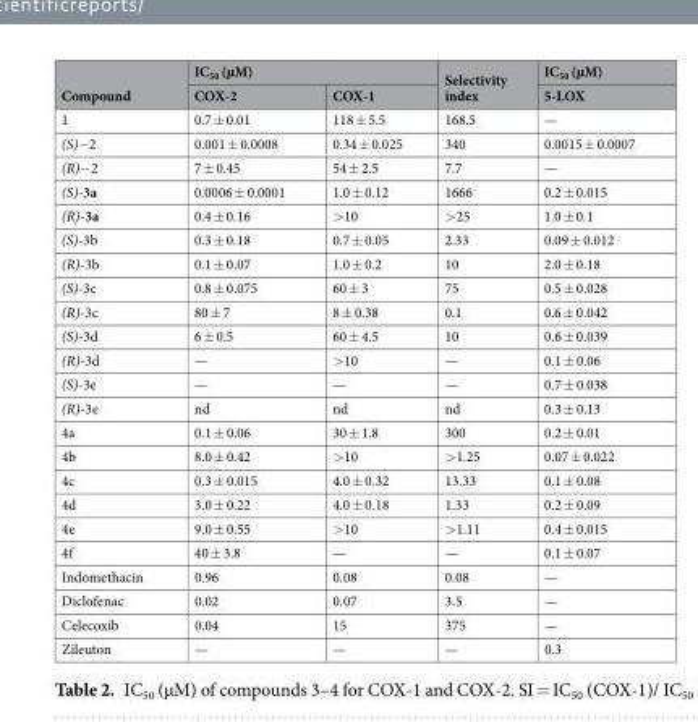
<table><thead><tr><td rowspan="2">Compound</td><td colspan="2">IC<sub>50</sub> (µM)</td><td rowspan="2">Selectivity index</td><td rowspan="2">IC<sub>50</sub> (µM) 5-LOX</td></tr><tr><td>COX-2</td><td>COX-1</td></tr></thead><tbody><tr><td>1</td><td>0.7 ± 0.01</td><td>118 ± 5.5</td><td>168.5</td><td>—</td></tr><tr><td>(S)−2</td><td>0.001 ± 0.0008</td><td>0.34 ± 0.025</td><td>340</td><td>0.0015 ± 0.0007</td></tr><tr><td>(R)−2</td><td>7 ± 0.45</td><td>54 ± 2.5</td><td>7.7</td><td>—</td></tr><tr><td>(S)-3a</td><td>0.0006 ± 0.0001</td><td>1.0 ± 0.12</td><td>1666</td><td>0.2 ± 0.015</td></tr><tr><td>(R)-3a</td><td>0.4 ± 0.16</td><td>&gt;10</td><td>&gt;25</td><td>1.0 ± 0.1</td></tr><tr><td>(S)-3b</td><td>0.3 ± 0.18</td><td>0.7 ± 0.05</td><td>2.33</td><td>0.09 ± 0.012</td></tr><tr><td>(R)-3b</td><td>0.1 ± 0.07</td><td>1.0 ± 0.2</td><td>10</td><td>2.0 ± 0.18</td></tr><tr><td>(S)-3c</td><td>0.8 ± 0.075</td><td>60 ± 3</td><td>75</td><td>0.5 ± 0.028</td></tr><tr><td>(R)-3c</td><td>80 ± 7</td><td>8 ± 0.38</td><td>0.1</td><td>0.6 ± 0.042</td></tr><tr><td>(S)-3d</td><td>6 ± 0.5</td><td>60 ± 4.5</td><td>10</td><td>0.6 ± 0.039</td></tr><tr><td>(R)-3d</td><td>—</td><td>&gt;10</td><td>—</td><td>0.1 ± 0.06</td></tr><tr><td>(S)-3e</td><td>—</td><td>—</td><td>—</td><td>0.7 ± 0.038</td></tr><tr><td>(R)-3e</td><td>nd</td><td>nd</td><td>nd</td><td>0.3 ± 0.13</td></tr><tr><td>4a</td><td>0.1 ± 0.06</td><td>30 ± 1.8</td><td>300</td><td>0.2 ± 0.01</td></tr><tr><td>4b</td><td>8.0 ± 0.42</td><td>&gt;10</td><td>&gt;1.25</td><td>0.07 ± 0.022</td></tr><tr><td>4c</td><td>0.3 ± 0.015</td><td>4.0 ± 0.32</td><td>13.33</td><td>0.1 ± 0.08</td></tr><tr><td>4d</td><td>3.0 ± 0.22</td><td>4.0 ± 0.18</td><td>1.33</td><td>0.2 ± 0.09</td></tr><tr><td>4e</td><td>9.0 ± 0.55</td><td>&gt;10</td><td>&gt;1.11</td><td>0.4 ± 0.015</td></tr><tr><td>4f</td><td>40 ± 3.8</td><td>—</td><td>—</td><td>0.1 ± 0.07</td></tr><tr><td>Indomethacin</td><td>0.96</td><td>0.08</td><td>0.08</td><td>—</td></tr><tr><td>Diclofenac</td><td>0.02</td><td>0.07</td><td>3.5</td><td>—</td></tr><tr><td>Celecoxib</td><td>0.04</td><td>15</td><td>375</td><td>—</td></tr><tr><td>Zileuton</td><td>—</td><td>—</td><td>—</td><td>0.3</td></tr></tbody></table>